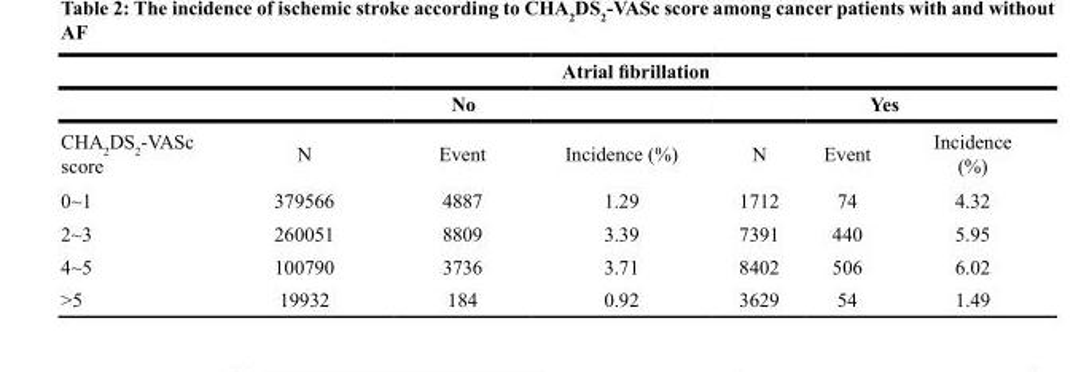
<table><thead><tr><td rowspan="3">CHA<sub>2</sub>DS<sub>2</sub>-VASc score</td><td colspan="6">Atrial fibrillation</td></tr><tr><td colspan="3">No</td><td colspan="3">Yes</td></tr><tr><td>N</td><td>Event</td><td>Incidence (%)</td><td>N</td><td>Event</td><td>Incidence (%)</td></tr></thead><tbody><tr><td>0~1</td><td>379566</td><td>4887</td><td>1.29</td><td>1712</td><td>74</td><td>4.32</td></tr><tr><td>2~3</td><td>260051</td><td>8809</td><td>3.39</td><td>7391</td><td>440</td><td>5.95</td></tr><tr><td>4~5</td><td>100790</td><td>3736</td><td>3.71</td><td>8402</td><td>506</td><td>6.02</td></tr><tr><td>&gt;5</td><td>19932</td><td>184</td><td>0.92</td><td>3629</td><td>54</td><td>1.49</td></tr></tbody></table>